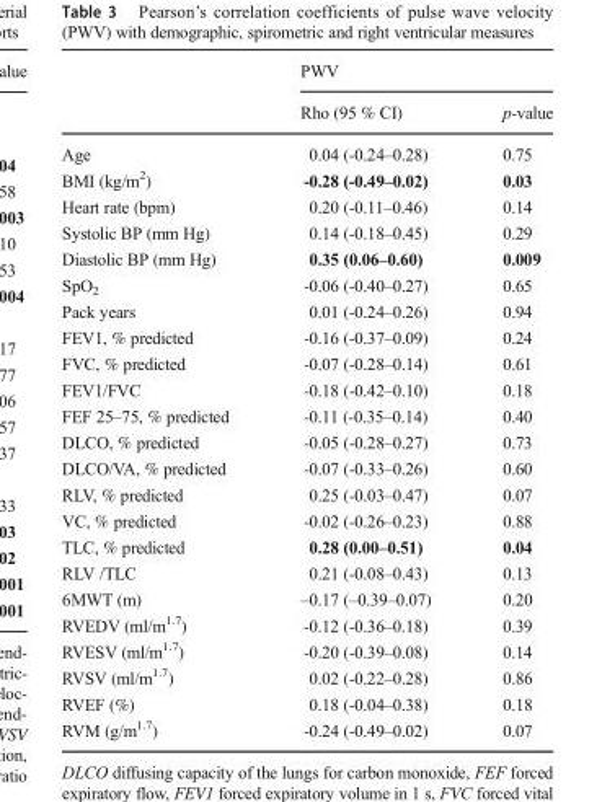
<table><thead><tr><td rowspan="2"></td><td colspan="2">PWV</td></tr><tr><td>Rho (95 % CI)</td><td>p-value</td></tr></thead><tbody><tr><td>Age</td><td>0.04 (-0.24–0.28)</td><td>0.75</td></tr><tr><td>BMI (kg/m<sup>2</sup>)</td><td>-0.28 (-0.49–0.02)</td><td>0.03</td></tr><tr><td>Heart rate (bpm)</td><td>0.20 (-0.11–0.46)</td><td>0.14</td></tr><tr><td>Systolic BP (mm Hg)</td><td>0.14 (-0.18–0.45)</td><td>0.29</td></tr><tr><td>Diastolic BP (mm Hg)</td><td>0.35 (0.06–0.60)</td><td>0.009</td></tr><tr><td>SpO<sub>2</sub></td><td>-0.06 (-0.40–0.27)</td><td>0.65</td></tr><tr><td>Pack years</td><td>0.01 (-0.24–0.26)</td><td>0.94</td></tr><tr><td>FEV1, % predicted</td><td>-0.16 (-0.37–0.09)</td><td>0.24</td></tr><tr><td>FVC, % predicted</td><td>-0.07 (-0.28–0.14)</td><td>0.61</td></tr><tr><td>FEV1/FVC</td><td>-0.18 (-0.42–0.10)</td><td>0.18</td></tr><tr><td>FEF 25–75, % predicted</td><td>-0.11 (-0.35–0.14)</td><td>0.40</td></tr><tr><td>DLCO, % predicted</td><td>-0.05 (-0.28–0.27)</td><td>0.73</td></tr><tr><td>DLCO/VA, % predicted</td><td>-0.07 (-0.33–0.26)</td><td>0.60</td></tr><tr><td>RLV, % predicted</td><td>0.25 (-0.03–0.47)</td><td>0.07</td></tr><tr><td>VC, % predicted</td><td>-0.02 (-0.26–0.23)</td><td>0.88</td></tr><tr><td>TLC, % predicted</td><td>0.28 (0.00–0.51)</td><td>0.04</td></tr><tr><td>RLV /TLC</td><td>0.21 (-0.08–0.43)</td><td>0.13</td></tr><tr><td>6MWT (m)</td><td>–0.17 (–0.39–0.07)</td><td>0.20</td></tr><tr><td>RVEDV (ml/m<sup>1.7</sup>)</td><td>-0.12 (-0.36–0.18)</td><td>0.39</td></tr><tr><td>RVESV (ml/m<sup>1.7</sup>)</td><td>-0.20 (-0.39–0.08)</td><td>0.14</td></tr><tr><td>RVSV (ml/m<sup>1.7</sup>)</td><td>0.02 (-0.22–0.28)</td><td>0.86</td></tr><tr><td>RVEF (%)</td><td>0.18 (-0.04–0.38)</td><td>0.18</td></tr><tr><td>RVM (g/m<sup>1.7</sup>)</td><td>-0.24 (-0.49–0.02)</td><td>0.07</td></tr></tbody></table>